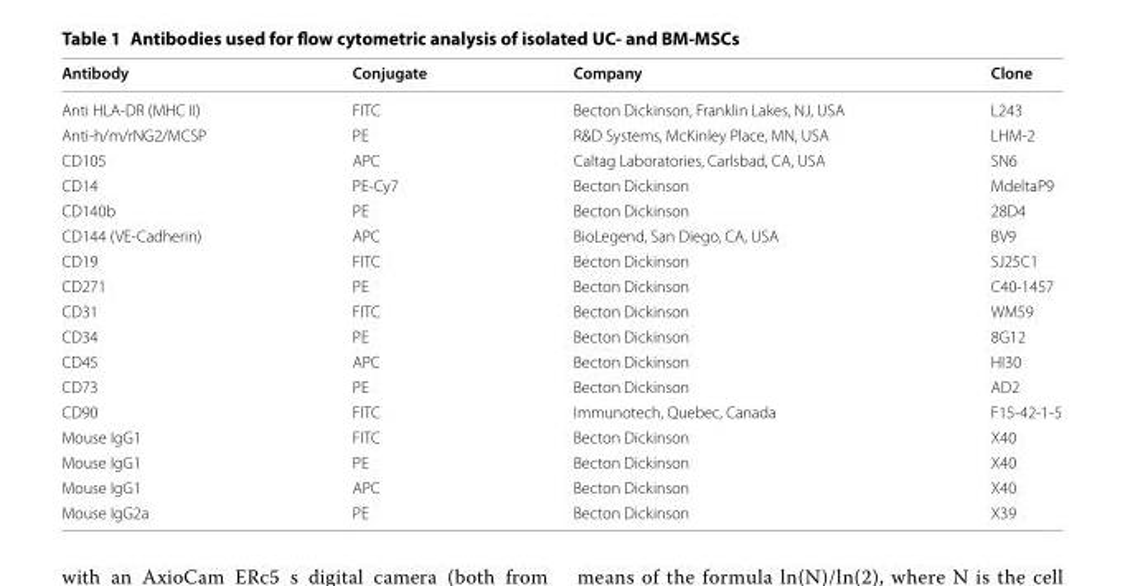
<table><thead><tr><td>Antibody</td><td>Conjugate</td><td>Company</td><td>Clone</td></tr></thead><tbody><tr><td>Anti HLA‑DR (MHC II)</td><td>FITC</td><td>Becton Dickinson, Franklin Lakes, NJ, USA</td><td>L243</td></tr><tr><td>Anti‑h/m/rNG2/MCSP</td><td>PE</td><td>R&amp;D Systems, McKinley Place, MN, USA</td><td>LHM‑2</td></tr><tr><td>CD105</td><td>APC</td><td>Caltag Laboratories, Carlsbad, CA, USA</td><td>SN6</td></tr><tr><td>CD14</td><td>PE‑Cy7</td><td>Becton Dickinson</td><td>MdeltaP9</td></tr><tr><td>CD140b</td><td>PE</td><td>Becton Dickinson</td><td>28D4</td></tr><tr><td>CD144 (VE‑Cadherin)</td><td>APC</td><td>BioLegend, San Diego, CA, USA</td><td>BV9</td></tr><tr><td>CD19</td><td>FITC</td><td>Becton Dickinson</td><td>SJ25C1</td></tr><tr><td>CD271</td><td>PE</td><td>Becton Dickinson</td><td>C40‑1457</td></tr><tr><td>CD31</td><td>FITC</td><td>Becton Dickinson</td><td>WM59</td></tr><tr><td>CD34</td><td>PE</td><td>Becton Dickinson</td><td>8G12</td></tr><tr><td>CD45</td><td>APC</td><td>Becton Dickinson</td><td>HI30</td></tr><tr><td>CD73</td><td>PE</td><td>Becton Dickinson</td><td>AD2</td></tr><tr><td>CD90</td><td>FITC</td><td>Immunotech, Quebec, Canada</td><td>F15‑42‑1‑5</td></tr><tr><td>Mouse IgG1</td><td>FITC</td><td>Becton Dickinson</td><td>X40</td></tr><tr><td>Mouse IgG1</td><td>PE</td><td>Becton Dickinson</td><td>X40</td></tr><tr><td>Mouse IgG1</td><td>APC</td><td>Becton Dickinson</td><td>X40</td></tr><tr><td>Mouse IgG2a</td><td>PE</td><td>Becton Dickinson</td><td>X39</td></tr></tbody></table>